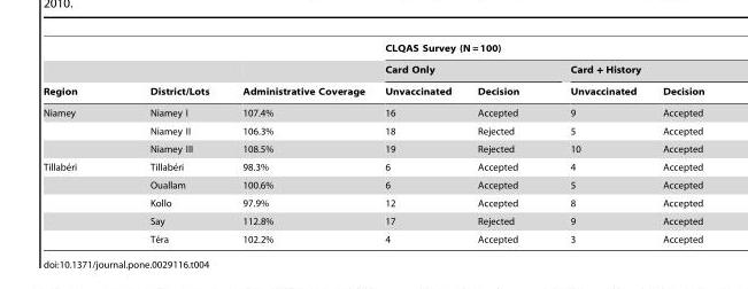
<table><thead><tr><td rowspan="3">Region</td><td rowspan="3">District/Lots</td><td rowspan="3">Administrative Coverage</td><td colspan="4">CLQAS Survey (N = 100)</td></tr><tr><td colspan="2">Card Only</td><td colspan="2">Card + History</td></tr><tr><td>Unvaccinated</td><td>Decision</td><td>Unvaccinated</td><td>Decision</td></tr></thead><tbody><tr><td rowspan="3">Niamey</td><td>Niamey I</td><td>107.4%</td><td>16</td><td>Accepted</td><td>9</td><td>Accepted</td></tr><tr><td>Niamey II</td><td>106.3%</td><td>18</td><td>Rejected</td><td>5</td><td>Accepted</td></tr><tr><td>Niamey III</td><td>108.5%</td><td>19</td><td>Rejected</td><td>10</td><td>Accepted</td></tr><tr><td rowspan="5">Tillabe´ri</td><td>Tillabe´ri</td><td>98.3%</td><td>6</td><td>Accepted</td><td>4</td><td>Accepted</td></tr><tr><td>Ouallam</td><td>100.6%</td><td>6</td><td>Accepted</td><td>5</td><td>Accepted</td></tr><tr><td>Kollo</td><td>97.9%</td><td>12</td><td>Accepted</td><td>8</td><td>Accepted</td></tr><tr><td>Say</td><td>112.8%</td><td>17</td><td>Rejected</td><td>9</td><td>Accepted</td></tr><tr><td>Te´ra</td><td>102.2%</td><td>4</td><td>Accepted</td><td>3</td><td>Accepted</td></tr></tbody></table>